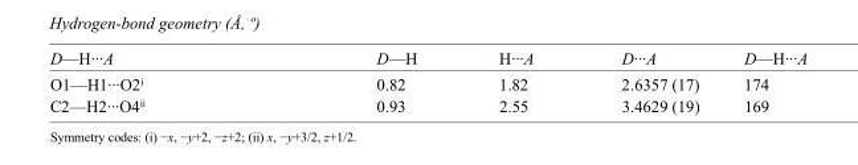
<table><tbody><tr><td>D—H···A</td><td>D—H</td><td>H···A</td><td>D···A</td><td>D—H···A</td></tr><tr><td>O1—H1···O2<sup>i</sup></td><td>0.82</td><td>1.82</td><td>2.6357 (17)</td><td>174</td></tr><tr><td>C2—H2···O4<sup>ii</sup></td><td>0.93</td><td>2.55</td><td>3.4629 (19)</td><td>169</td></tr></tbody></table>